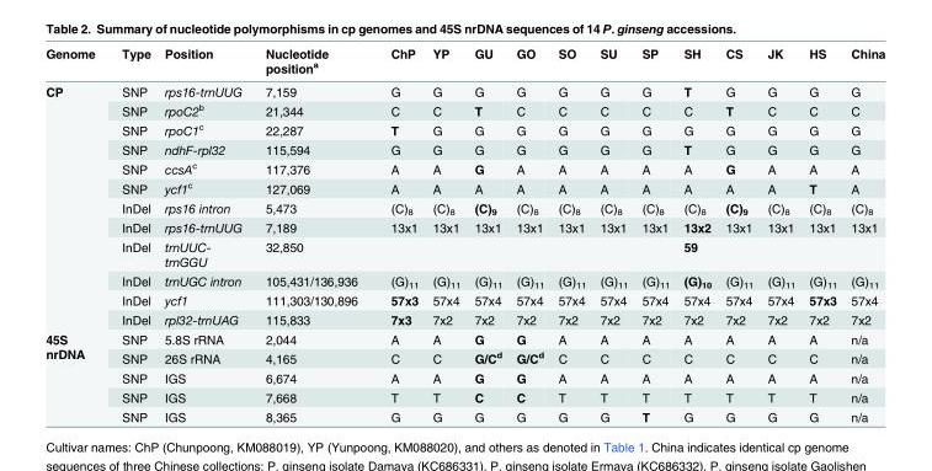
<table><thead><tr><td>Genome</td><td>Type</td><td>Position</td><td>Nucleotide position<sup>a</sup></td><td>ChP</td><td>YP</td><td>GU</td><td>GO</td><td>SO</td><td>SU</td><td>SP</td><td>SH</td><td>CS</td><td>JK</td><td>HS</td><td>China</td></tr></thead><tbody><tr><td rowspan="12">CP</td><td>SNP</td><td>rps16-trnUUG</td><td>7,159</td><td>G</td><td>G</td><td>G</td><td>G</td><td>G</td><td>G</td><td>G</td><td>T</td><td>G</td><td>G</td><td>G</td><td>G</td></tr><tr><td>SNP</td><td>rpoC2<sup>b</sup></td><td>21,344</td><td>C</td><td>C</td><td>T</td><td>C</td><td>C</td><td>C</td><td>C</td><td>C</td><td>T</td><td>C</td><td>C</td><td>C</td></tr><tr><td>SNP</td><td>rpoC1<sup>c</sup></td><td>22,287</td><td>T</td><td>G</td><td>G</td><td>G</td><td>G</td><td>G</td><td>G</td><td>G</td><td>G</td><td>G</td><td>G</td><td>G</td></tr><tr><td>SNP</td><td>ndhF-rpl32</td><td>115,594</td><td>G</td><td>G</td><td>G</td><td>G</td><td>G</td><td>G</td><td>G</td><td>T</td><td>G</td><td>G</td><td>G</td><td>G</td></tr><tr><td>SNP</td><td>ccsA<sup>c</sup></td><td>117,376</td><td>A</td><td>A</td><td>G</td><td>A</td><td>A</td><td>A</td><td>A</td><td>A</td><td>G</td><td>A</td><td>A</td><td>A</td></tr><tr><td>SNP</td><td>ycf1<sup>c</sup></td><td>127,069</td><td>A</td><td>A</td><td>A</td><td>A</td><td>A</td><td>A</td><td>A</td><td>A</td><td>A</td><td>A</td><td>T</td><td>A</td></tr><tr><td>InDel</td><td>rps16 intron</td><td>5,473</td><td>(C)<sub>8</sub></td><td>(C)<sub>8</sub></td><td>(C)<sub>9</sub></td><td>(C)<sub>8</sub></td><td>(C)<sub>8</sub></td><td>(C)<sub>8</sub></td><td>(C)<sub>8</sub></td><td>(C)<sub>8</sub></td><td>(C)<sub>9</sub></td><td>(C)<sub>8</sub></td><td>(C)<sub>8</sub></td><td>(C)<sub>8</sub></td></tr><tr><td>InDel</td><td>rps16-trnUUG</td><td>7,189</td><td>13x1</td><td>13x1</td><td>13x1</td><td>13x1</td><td>13x1</td><td>13x1</td><td>13x1</td><td>13x2</td><td>13x1</td><td>13x1</td><td>13x1</td><td>13x1</td></tr><tr><td>InDel</td><td>trnUUC- trnGGU</td><td>32,850</td><td></td><td></td><td></td><td></td><td></td><td></td><td></td><td>59</td><td></td><td></td><td></td><td></td></tr><tr><td>InDel</td><td>trnUGC intron</td><td>105,431/136,936</td><td>(G)<sub>11</sub></td><td>(G)<sub>11</sub></td><td>(G)<sub>11</sub></td><td>(G)<sub>11</sub></td><td>(G)<sub>11</sub></td><td>(G)<sub>11</sub></td><td>(G)<sub>11</sub></td><td>(G)<sub>10</sub></td><td>(G)<sub>11</sub></td><td>(G)<sub>11</sub></td><td>(G)<sub>11</sub></td><td>(G)<sub>11</sub></td></tr><tr><td>InDel</td><td>ycf1</td><td>111,303/130,896</td><td>57x3</td><td>57x4</td><td>57x4</td><td>57x4</td><td>57x4</td><td>57x4</td><td>57x4</td><td>57x4</td><td>57x4</td><td>57x4</td><td>57x3</td><td>57x4</td></tr><tr><td>InDel</td><td>rpl32-trnUAG</td><td>115,833</td><td>7x3</td><td>7x2</td><td>7x2</td><td>7x2</td><td>7x2</td><td>7x2</td><td>7x2</td><td>7x2</td><td>7x2</td><td>7x2</td><td>7x2</td><td>7x2</td></tr><tr><td rowspan="5">45S nrDNA</td><td>SNP</td><td>5.8S rRNA</td><td>2,044</td><td>A</td><td>A</td><td>G</td><td>G</td><td>A</td><td>A</td><td>A</td><td>A</td><td>A</td><td>A</td><td>A</td><td>n/a</td></tr><tr><td>SNP</td><td>26S rRNA</td><td>4,165</td><td>C</td><td>C</td><td>G/C<sup>d</sup></td><td>G/C<sup>d</sup></td><td>C</td><td>C</td><td>C</td><td>C</td><td>C</td><td>C</td><td>C</td><td>n/a</td></tr><tr><td>SNP</td><td>IGS</td><td>6,674</td><td>A</td><td>A</td><td>G</td><td>G</td><td>A</td><td>A</td><td>A</td><td>A</td><td>A</td><td>A</td><td>A</td><td>n/a</td></tr><tr><td>SNP</td><td>IGS</td><td>7,668</td><td>T</td><td>T</td><td>C</td><td>C</td><td>T</td><td>T</td><td>T</td><td>T</td><td>T</td><td>T</td><td>T</td><td>n/a</td></tr><tr><td>SNP</td><td>IGS</td><td>8,365</td><td>G</td><td>G</td><td>G</td><td>G</td><td>G</td><td>G</td><td>T</td><td>G</td><td>G</td><td>G</td><td>G</td><td>n/a</td></tr></tbody></table>